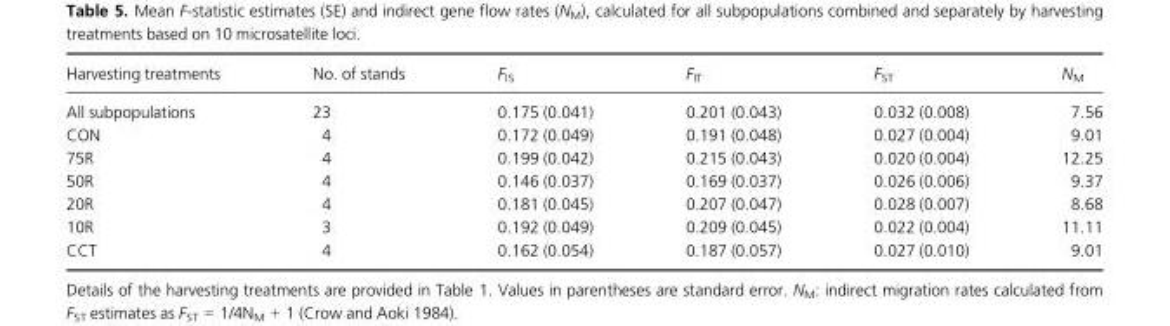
<table><thead><tr><td>Harvesting treatments</td><td>No. of stands</td><td>F<sub>IS</sub></td><td>F<sub>IT</sub></td><td>F<sub>ST</sub></td><td>N<sub>M</sub></td></tr></thead><tbody><tr><td>All subpopulations</td><td>23</td><td>0.175 (0.041)</td><td>0.201 (0.043)</td><td>0.032 (0.008)</td><td>7.56</td></tr><tr><td>CON</td><td>4</td><td>0.172 (0.049)</td><td>0.191 (0.048)</td><td>0.027 (0.004)</td><td>9.01</td></tr><tr><td>75R</td><td>4</td><td>0.199 (0.042)</td><td>0.215 (0.043)</td><td>0.020 (0.004)</td><td>12.25</td></tr><tr><td>50R</td><td>4</td><td>0.146 (0.037)</td><td>0.169 (0.037)</td><td>0.026 (0.006)</td><td>9.37</td></tr><tr><td>20R</td><td>4</td><td>0.181 (0.045)</td><td>0.207 (0.047)</td><td>0.028 (0.007)</td><td>8.68</td></tr><tr><td>10R</td><td>3</td><td>0.192 (0.049)</td><td>0.209 (0.045)</td><td>0.022 (0.004)</td><td>11.11</td></tr><tr><td>CCT</td><td>4</td><td>0.162 (0.054)</td><td>0.187 (0.057)</td><td>0.027 (0.010)</td><td>9.01</td></tr></tbody></table>